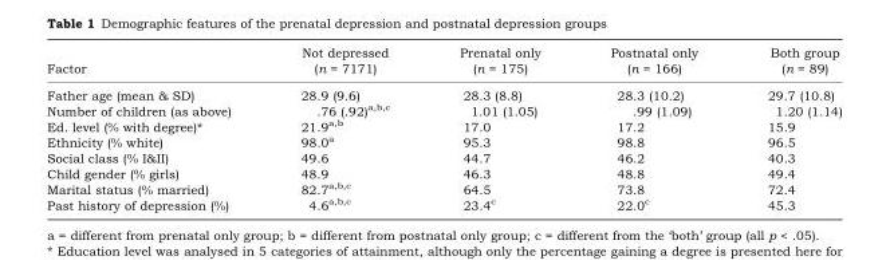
<table><thead><tr><td>Factor</td><td>Not depressed (n = 7171)</td><td>Prenatal only (n = 175)</td><td>Postnatal only (n = 166)</td><td>Both group (n = 89)</td></tr></thead><tbody><tr><td>Father age (mean &amp; SD)</td><td>28.9 (9.6)</td><td>28.3 (8.8)</td><td>28.3 (10.2)</td><td>29.7 (10.8)</td></tr><tr><td>Number of children (as above)</td><td>.76 (.92)<sup>a,b,c</sup></td><td>1.01 (1.05)</td><td>.99 (1.09)</td><td>1.20 (1.14)</td></tr><tr><td>Ed. level (% with degree)*</td><td>21.9<sup>a,b</sup></td><td>17.0</td><td>17.2</td><td>15.9</td></tr><tr><td>Ethnicity (% white)</td><td>98.0<sup>a</sup></td><td>95.3</td><td>98.8</td><td>96.5</td></tr><tr><td>Social class (% I&amp;II)</td><td>49.6</td><td>44.7</td><td>46.2</td><td>40.3</td></tr><tr><td>Child gender (% girls)</td><td>48.9</td><td>46.3</td><td>48.8</td><td>49.4</td></tr><tr><td>Marital status (% married)</td><td>82.7<sup>a,b,c</sup></td><td>64.5</td><td>73.8</td><td>72.4</td></tr><tr><td>Past history of depression (%)</td><td>4.6<sup>a,b,c</sup></td><td>23.4<sup>c</sup></td><td>22.0<sup>c</sup></td><td>45.3</td></tr></tbody></table>